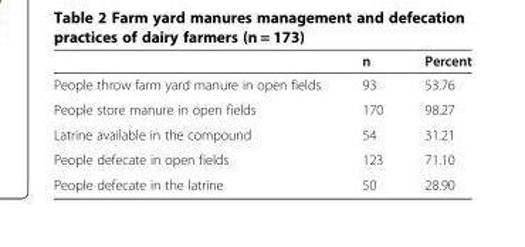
<table><thead><tr><td></td><td>n</td><td>Percent</td></tr></thead><tbody><tr><td>People throw farm yard manure in open fields</td><td>93</td><td>53.76</td></tr><tr><td>People store manure in open fields</td><td>170</td><td>98.27</td></tr><tr><td>Latrine available in the compound</td><td>54</td><td>31.21</td></tr><tr><td>People defecate in open fields</td><td>123</td><td>71.10</td></tr><tr><td>People defecate in the latrine</td><td>50</td><td>28.90</td></tr></tbody></table>